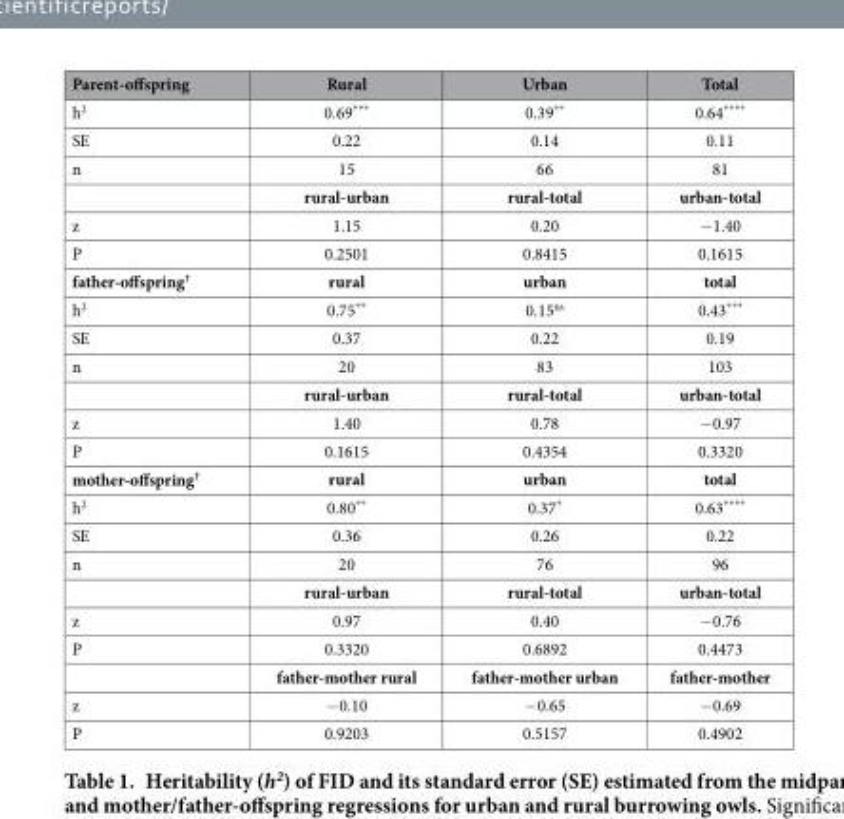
<table><thead><tr><td>Parent-offspring</td><td>Rural</td><td>Urban</td><td>Total</td></tr></thead><tbody><tr><td>h<sup>2</sup></td><td>0.69***</td><td>0.39**</td><td>0.64****</td></tr><tr><td>SE</td><td>0.22</td><td>0.14</td><td>0.11</td></tr><tr><td rowspan="2">n</td><td>15</td><td>66</td><td>81</td></tr><tr><td>rural-urban</td><td>rural-total</td><td>urban-total</td></tr><tr><td>z</td><td>1.15</td><td>0.20</td><td>− 1.40</td></tr><tr><td>P</td><td>0.2501</td><td>0.8415</td><td>0.1615</td></tr><tr><td>father-offspring†</td><td>rural</td><td>urban</td><td>total</td></tr><tr><td>h<sup>2</sup></td><td>0.75**</td><td>0.15<sup>ns</sup></td><td>0.43***</td></tr><tr><td>SE</td><td>0.37</td><td>0.22</td><td>0.19</td></tr><tr><td rowspan="2">n</td><td>20</td><td>83</td><td>103</td></tr><tr><td>rural-urban</td><td>rural-total</td><td>urban-total</td></tr><tr><td>z</td><td>1.40</td><td>0.78</td><td>− 0.97</td></tr><tr><td>P</td><td>0.1615</td><td>0.4354</td><td>0.3320</td></tr><tr><td>mother-offspring†</td><td>rural</td><td>urban</td><td>total</td></tr><tr><td>h<sup>2</sup></td><td>0.80**</td><td>0.37*</td><td>0.63****</td></tr><tr><td>SE</td><td>0.36</td><td>0.26</td><td>0.22</td></tr><tr><td rowspan="2">n</td><td>20</td><td>76</td><td>96</td></tr><tr><td>rural-urban</td><td>rural-total</td><td>urban-total</td></tr><tr><td>z</td><td>0.97</td><td>0.40</td><td>− 0.76</td></tr><tr><td rowspan="2">P</td><td>0.3320</td><td>0.6892</td><td>0.4473</td></tr><tr><td>father-mother rural</td><td>father-mother urban</td><td>father-mother</td></tr><tr><td>z</td><td>− 0.10</td><td>− 0.65</td><td>− 0.69</td></tr><tr><td>P</td><td>0.9203</td><td>0.5157</td><td>0.4902</td></tr></tbody></table>